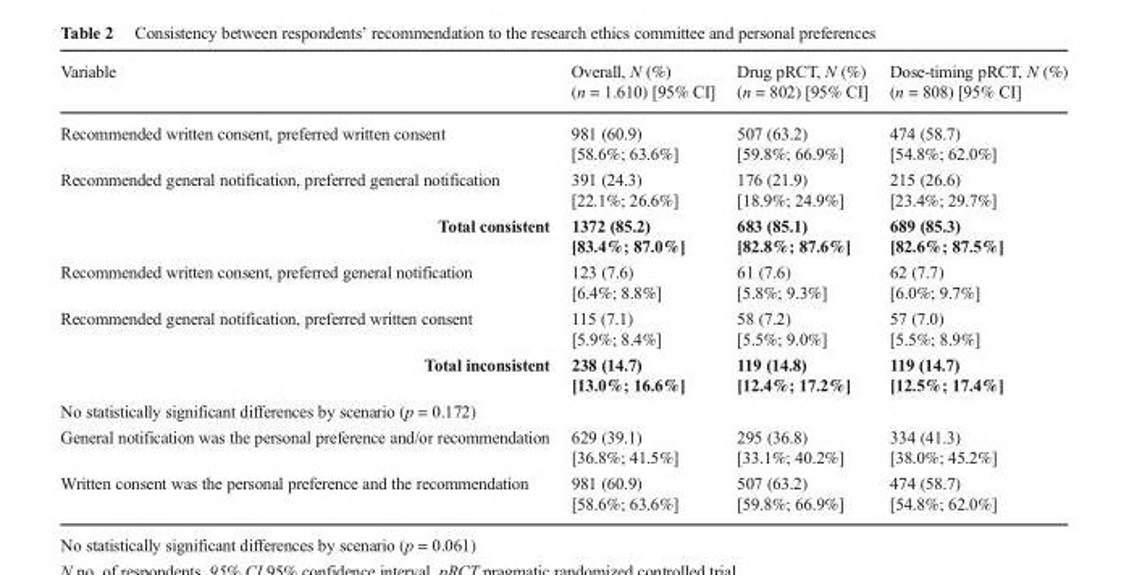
<table><thead><tr><td rowspan="2">Variable</td><td rowspan="2">Overall, N (%) (n = 1.610) [95% CI]</td><td rowspan="2">Drug pRCT, N (%) (n = 802) [95% CI]</td><td rowspan="2">Dose-timing pRCT, N (%) (n = 808) [95% CI]</td></tr><tr></tr></thead><tbody><tr><td>Recommended written consent, preferred written consent</td><td>981 (60.9) [58.6%; 63.6%]</td><td>507 (63.2) [59.8%; 66.9%]</td><td>474 (58.7) [54.8%; 62.0%]</td></tr><tr><td>Recommended general notification, preferred general notification</td><td>391 (24.3) [22.1%; 26.6%]</td><td>176 (21.9) [18.9%; 24.9%]</td><td>215 (26.6) [23.4%; 29.7%]</td></tr><tr><td>Total consistent</td><td>1372 (85.2) [83.4%; 87.0%]</td><td>683 (85.1) [82.8%; 87.6%]</td><td>689 (85.3) [82.6%; 87.5%]</td></tr><tr><td>Recommended written consent, preferred general notification</td><td>123 (7.6) [6.4%; 8.8%]</td><td>61 (7.6) [5.8%; 9.3%]</td><td>62 (7.7) [6.0%; 9.7%]</td></tr><tr><td>Recommended general notification, preferred written consent</td><td>115 (7.1) [5.9%; 8.4%]</td><td>58 (7.2) [5.5%; 9.0%]</td><td>57 (7.0) [5.5%; 8.9%]</td></tr><tr><td>Total inconsistent</td><td>238 (14.7) [13.0%; 16.6%]</td><td>119 (14.8) [12.4%; 17.2%]</td><td>119 (14.7) [12.5%; 17.4%]</td></tr><tr><td colspan="4">No statistically significant differences by scenario (p = 0.172)</td></tr><tr><td>General notification was the personal preference and/or recommendation</td><td>629 (39.1) [36.8%; 41.5%]</td><td>295 (36.8) [33.1%; 40.2%]</td><td>334 (41.3) [38.0%; 45.2%]</td></tr><tr><td>Written consent was the personal preference and the recommendation</td><td>981 (60.9) [58.6%; 63.6%]</td><td>507 (63.2) [59.8%; 66.9%]</td><td>474 (58.7) [54.8%; 62.0%]</td></tr></tbody></table>